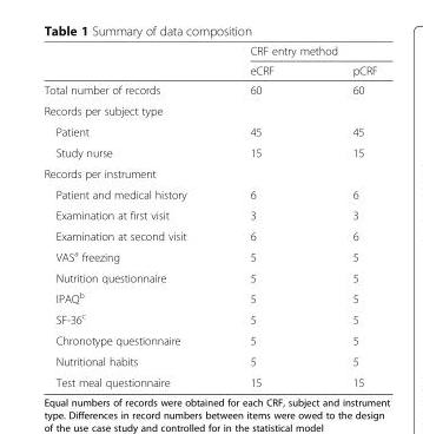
<table><thead><tr><td rowspan="2"></td><td colspan="2">CRF entry method</td></tr><tr><td>eCRF</td><td>pCRF</td></tr></thead><tbody><tr><td>Total number of records</td><td>60</td><td>60</td></tr><tr><td colspan="3">Records per subject type</td></tr><tr><td>Patient</td><td>45</td><td>45</td></tr><tr><td>Study nurse</td><td>15</td><td>15</td></tr><tr><td colspan="3">Records per instrument</td></tr><tr><td>Patient and medical history</td><td>6</td><td>6</td></tr><tr><td>Examination at first visit</td><td>3</td><td>3</td></tr><tr><td>Examination at second visit</td><td>6</td><td>6</td></tr><tr><td>VAS<sup>a</sup> freezing</td><td>5</td><td>5</td></tr><tr><td>Nutrition questionnaire</td><td>5</td><td>5</td></tr><tr><td>IPAQ<sup>b</sup></td><td>5</td><td>5</td></tr><tr><td>SF-36<sup>c</sup></td><td>5</td><td>5</td></tr><tr><td>Chronotype questionnaire</td><td>5</td><td>5</td></tr><tr><td>Nutritional habits</td><td>5</td><td>5</td></tr><tr><td>Test meal questionnaire</td><td>15</td><td>15</td></tr></tbody></table>